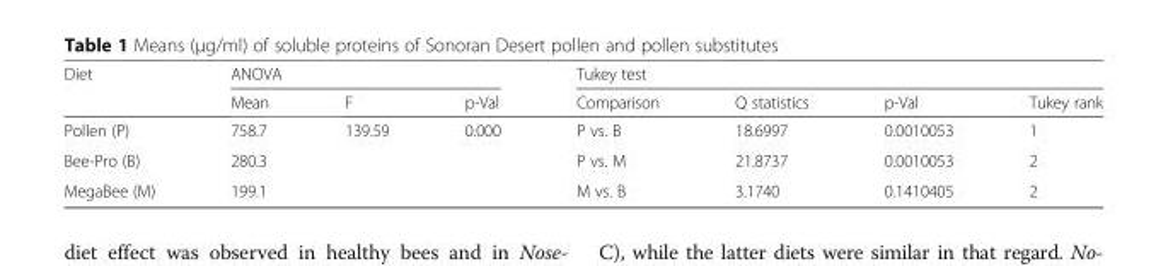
<table><thead><tr><td rowspan="2">Diet</td><td colspan="3">ANOVA</td><td colspan="4">Tukey test</td></tr><tr><td>Mean</td><td>F</td><td>p-Val</td><td>Comparison</td><td>Q statistics</td><td>p-Val</td><td>Tukey rank</td></tr></thead><tbody><tr><td>Pollen (P)</td><td>758.7</td><td rowspan="3">139.59</td><td rowspan="3">0.000</td><td>P vs. B</td><td>18.6997</td><td>0.0010053</td><td>1</td></tr><tr><td>Bee-Pro (B)</td><td>280.3</td><td>P vs. M</td><td>21.8737</td><td>0.0010053</td><td>2</td></tr><tr><td>MegaBee (M)</td><td>199.1</td><td>M vs. B</td><td>3.1740</td><td>0.1410405</td><td>2</td></tr></tbody></table>